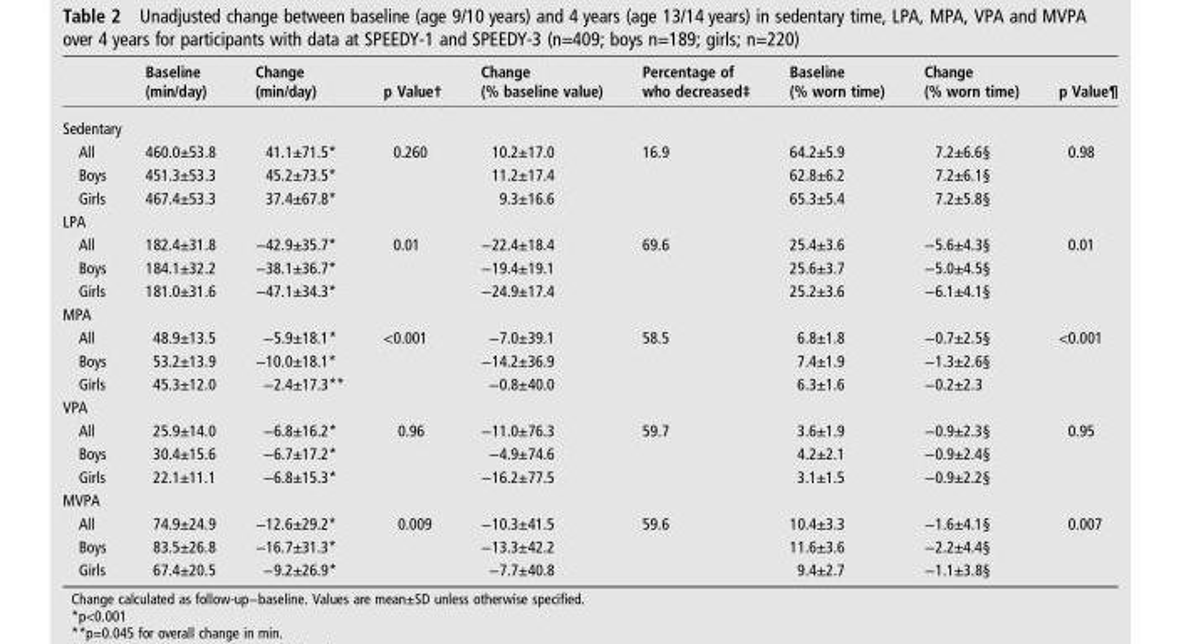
<table><thead><tr><td></td><td>Baseline (min/day)</td><td>Change (min/day)</td><td>p Value†</td><td>Change (% baseline value)</td><td>Percentage of who decreased‡</td><td>Baseline (% worn time)</td><td>Change (% worn time)</td><td>p Value¶</td></tr></thead><tbody><tr><td colspan="9">Sedentary</td></tr><tr><td>All</td><td>460.0±53.8</td><td>41.1±71.5*</td><td>0.260</td><td>10.2±17.0</td><td>16.9</td><td>64.2±5.9</td><td>7.2±6.6§</td><td>0.98</td></tr><tr><td>Boys</td><td>451.3±53.3</td><td>45.2±73.5*</td><td></td><td>11.2±17.4</td><td></td><td>62.8±6.2</td><td>7.2±6.1§</td><td></td></tr><tr><td>Girls</td><td>467.4±53.3</td><td>37.4±67.8*</td><td></td><td>9.3±16.6</td><td></td><td>65.3±5.4</td><td>7.2±5.8§</td><td></td></tr><tr><td colspan="9">LPA</td></tr><tr><td>All</td><td>182.4±31.8</td><td>−42.9±35.7*</td><td>0.01</td><td>−22.4±18.4</td><td>69.6</td><td>25.4±3.6</td><td>−5.6±4.3§</td><td>0.01</td></tr><tr><td>Boys</td><td>184.1±32.2</td><td>−38.1±36.7*</td><td></td><td>−19.4±19.1</td><td></td><td>25.6±3.7</td><td>−5.0±4.5§</td><td></td></tr><tr><td>Girls</td><td>181.0±31.6</td><td>−47.1±34.3*</td><td></td><td>−24.9±17.4</td><td></td><td>25.2±3.6</td><td>−6.1±4.1§</td><td></td></tr><tr><td colspan="9">MPA</td></tr><tr><td>All</td><td>48.9±13.5</td><td>−5.9±18.1*</td><td>&lt;0.001</td><td>−7.0±39.1</td><td>58.5</td><td>6.8±1.8</td><td>−0.7±2.5§</td><td>&lt;0.001</td></tr><tr><td>Boys</td><td>53.2±13.9</td><td>−10.0±18.1*</td><td></td><td>−14.2±36.9</td><td></td><td>7.4±1.9</td><td>−1.3±2.6§</td><td></td></tr><tr><td>Girls</td><td>45.3±12.0</td><td>−2.4±17.3**</td><td></td><td>−0.8±40.0</td><td></td><td>6.3±1.6</td><td>−0.2±2.3</td><td></td></tr><tr><td colspan="9">VPA</td></tr><tr><td>All</td><td>25.9±14.0</td><td>−6.8±16.2*</td><td>0.96</td><td>−11.0±76.3</td><td>59.7</td><td>3.6±1.9</td><td>−0.9±2.3§</td><td>0.95</td></tr><tr><td>Boys</td><td>30.4±15.6</td><td>−6.7±17.2*</td><td></td><td>−4.9±74.6</td><td></td><td>4.2±2.1</td><td>−0.9±2.4§</td><td></td></tr><tr><td>Girls</td><td>22.1±11.1</td><td>−6.8±15.3*</td><td></td><td>−16.2±77.5</td><td></td><td>3.1±1.5</td><td>−0.9±2.2§</td><td></td></tr><tr><td colspan="9">MVPA</td></tr><tr><td>All</td><td>74.9±24.9</td><td>−12.6±29.2*</td><td>0.009</td><td>−10.3±41.5</td><td>59.6</td><td>10.4±3.3</td><td>−1.6±4.1§</td><td>0.007</td></tr><tr><td>Boys</td><td>83.5±26.8</td><td>−16.7±31.3*</td><td></td><td>−13.3±42.2</td><td></td><td>11.6±3.6</td><td>−2.2±4.4§</td><td></td></tr><tr><td>Girls</td><td>67.4±20.5</td><td>−9.2±26.9*</td><td></td><td>−7.7±40.8</td><td></td><td>9.4±2.7</td><td>−1.1±3.8§</td><td></td></tr></tbody></table>